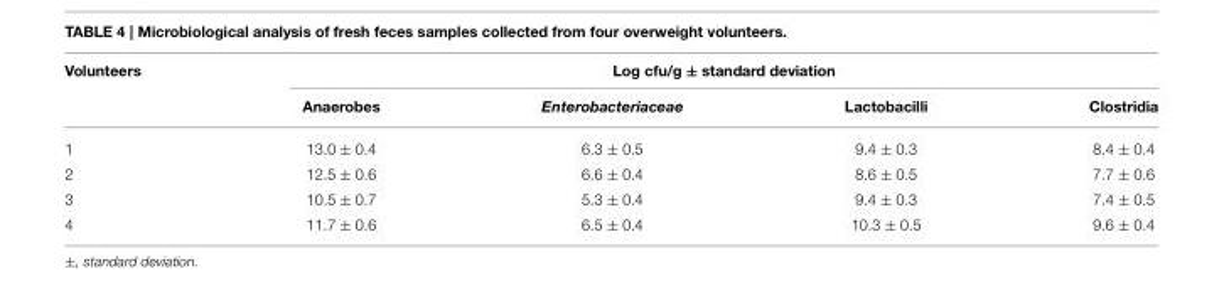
<table><thead><tr><td rowspan="2">Volunteers</td><td colspan="4">Log cfu/g ± standard deviation</td></tr><tr><td>Anaerobes</td><td>Enterobacteriaceae</td><td>Lactobacilli</td><td>Clostridia</td></tr></thead><tbody><tr><td>1</td><td>13.0 ± 0.4</td><td>6.3 ± 0.5</td><td>9.4 ± 0.3</td><td>8.4 ± 0.4</td></tr><tr><td>2</td><td>12.5 ± 0.6</td><td>6.6 ± 0.4</td><td>8.6 ± 0.5</td><td>7.7 ± 0.6</td></tr><tr><td>3</td><td>10.5 ± 0.7</td><td>5.3 ± 0.4</td><td>9.4 ± 0.3</td><td>7.4 ± 0.5</td></tr><tr><td>4</td><td>11.7 ± 0.6</td><td>6.5 ± 0.4</td><td>10.3 ± 0.5</td><td>9.6 ± 0.4</td></tr></tbody></table>